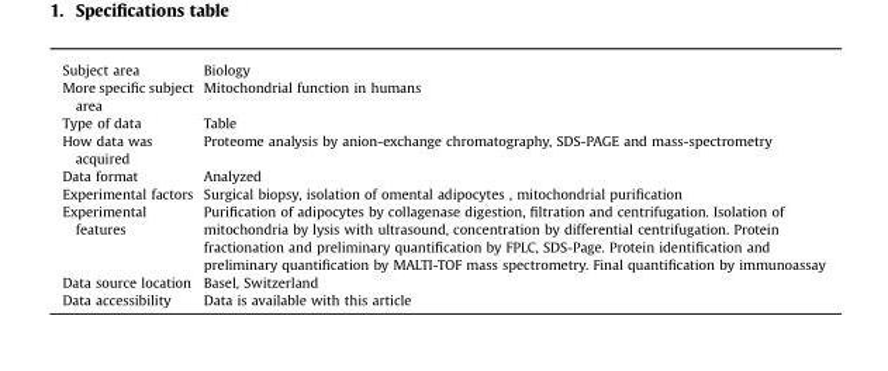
<table><tbody><tr><td>Subject area</td><td>Biology</td></tr><tr><td>More specific subject area</td><td>Mitochondrial function in humans</td></tr><tr><td>Type of data</td><td>Table</td></tr><tr><td>How data was acquired</td><td>Proteome analysis by anion-exchange chromatography, SDS-PAGE and mass-spectrometry</td></tr><tr><td>Data format</td><td>Analyzed</td></tr><tr><td>Experimental factors</td><td>Surgical biopsy, isolation of omental adipocytes , mitochondrial purification</td></tr><tr><td>Experimental features</td><td>Purification of adipocytes by collagenase digestion, filtration and centrifugation. Isolation of mitochondria by lysis with ultrasound, concentration by differential centrifugation. Protein fractionation and preliminary quantification by FPLC, SDS-Page. Protein identification and preliminary quantification by MALTI-TOF mass spectrometry. Final quantification by immunoassay</td></tr><tr><td>Data source location</td><td>Basel, Switzerland</td></tr><tr><td>Data accessibility</td><td>Data is available with this article</td></tr></tbody></table>